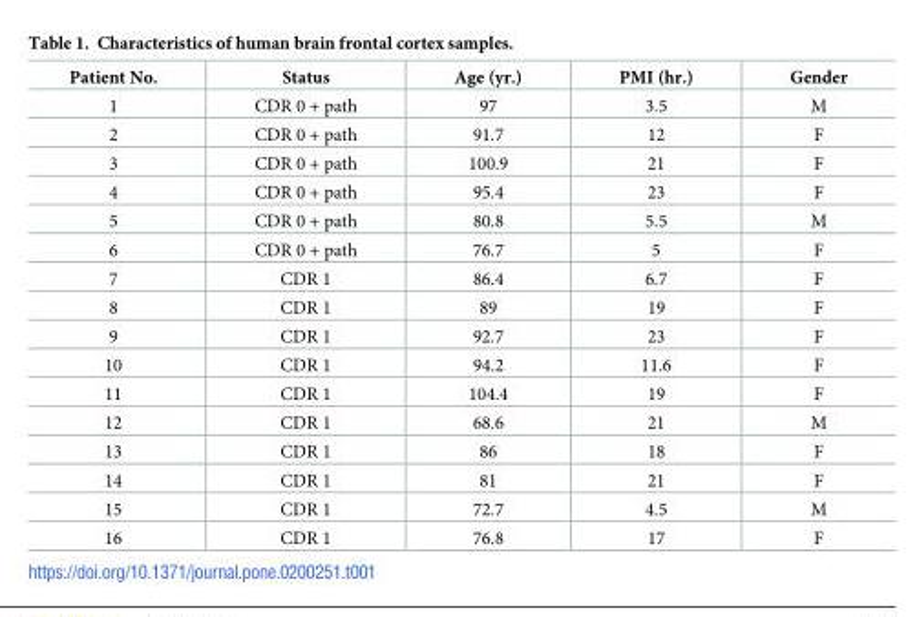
<table><thead><tr><td>Patient No.</td><td>Status</td><td>Age (yr.)</td><td>PMI (hr.)</td><td>Gender</td></tr></thead><tbody><tr><td>1</td><td>CDR 0 + path</td><td>97</td><td>3.5</td><td>M</td></tr><tr><td>2</td><td>CDR 0 + path</td><td>91.7</td><td>12</td><td>F</td></tr><tr><td>3</td><td>CDR 0 + path</td><td>100.9</td><td>21</td><td>F</td></tr><tr><td>4</td><td>CDR 0 + path</td><td>95.4</td><td>23</td><td>F</td></tr><tr><td>5</td><td>CDR 0 + path</td><td>80.8</td><td>5.5</td><td>M</td></tr><tr><td>6</td><td>CDR 0 + path</td><td>76.7</td><td>5</td><td>F</td></tr><tr><td>7</td><td>CDR 1</td><td>86.4</td><td>6.7</td><td>F</td></tr><tr><td>8</td><td>CDR 1</td><td>89</td><td>19</td><td>F</td></tr><tr><td>9</td><td>CDR 1</td><td>92.7</td><td>23</td><td>F</td></tr><tr><td>10</td><td>CDR 1</td><td>94.2</td><td>11.6</td><td>F</td></tr><tr><td>11</td><td>CDR 1</td><td>104.4</td><td>19</td><td>F</td></tr><tr><td>12</td><td>CDR 1</td><td>68.6</td><td>21</td><td>M</td></tr><tr><td>13</td><td>CDR 1</td><td>86</td><td>18</td><td>F</td></tr><tr><td>14</td><td>CDR 1</td><td>81</td><td>21</td><td>F</td></tr><tr><td>15</td><td>CDR 1</td><td>72.7</td><td>4.5</td><td>M</td></tr><tr><td>16</td><td>CDR 1</td><td>76.8</td><td>17</td><td>F</td></tr></tbody></table>